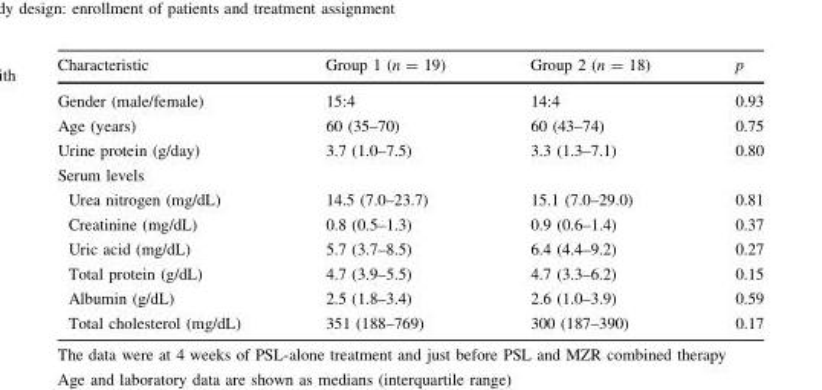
<table><thead><tr><td>Characteristic</td><td>Group 1 (n = 19)</td><td>Group 2 (n = 18)</td><td>p</td></tr></thead><tbody><tr><td>Gender (male/female)</td><td>15:4</td><td>14:4</td><td>0.93</td></tr><tr><td>Age (years)</td><td>60 (35–70)</td><td>60 (43–74)</td><td>0.75</td></tr><tr><td>Urine protein (g/day)</td><td>3.7 (1.0–7.5)</td><td>3.3 (1.3–7.1)</td><td>0.80</td></tr><tr><td colspan="4">Serum levels</td></tr><tr><td>Urea nitrogen (mg/dL)</td><td>14.5 (7.0–23.7)</td><td>15.1 (7.0–29.0)</td><td>0.81</td></tr><tr><td>Creatinine (mg/dL)</td><td>0.8 (0.5–1.3)</td><td>0.9 (0.6–1.4)</td><td>0.37</td></tr><tr><td>Uric acid (mg/dL)</td><td>5.7 (3.7–8.5)</td><td>6.4 (4.4–9.2)</td><td>0.27</td></tr><tr><td>Total protein (g/dL)</td><td>4.7 (3.9–5.5)</td><td>4.7 (3.3–6.2)</td><td>0.15</td></tr><tr><td>Albumin (g/dL)</td><td>2.5 (1.8–3.4)</td><td>2.6 (1.0–3.9)</td><td>0.59</td></tr><tr><td>Total cholesterol (mg/dL)</td><td>351 (188–769)</td><td>300 (187–390)</td><td>0.17</td></tr></tbody></table>